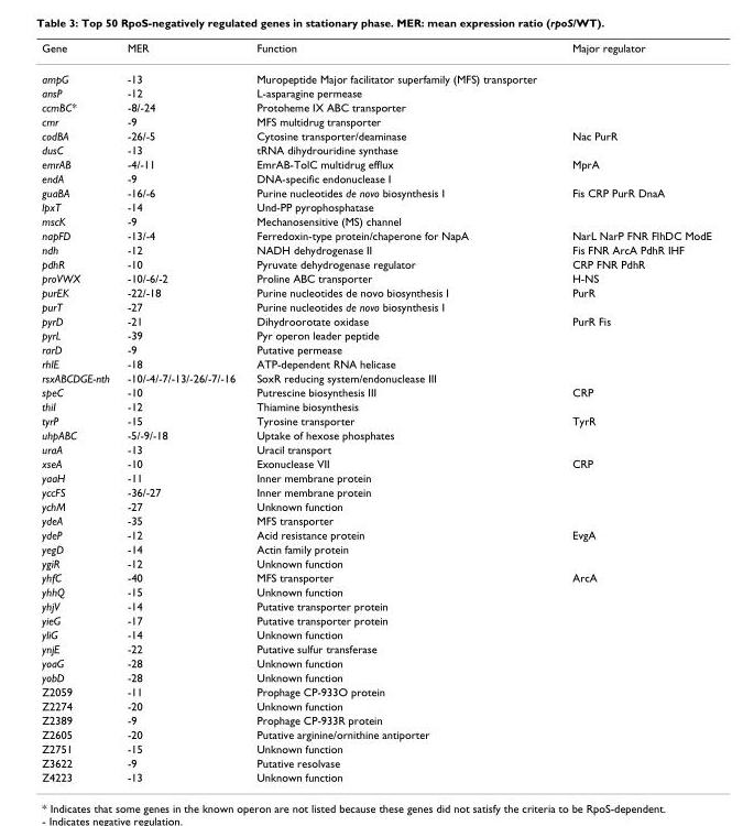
<table><thead><tr><td>Gene</td><td>MER</td><td>Function</td><td>Major regulator</td></tr></thead><tbody><tr><td>ampG</td><td>-13</td><td>Muropeptide Major facilitator superfamily (MFS) transporter</td><td></td></tr><tr><td>ansP</td><td>-12</td><td>L-asparagine permease</td><td></td></tr><tr><td>ccmBC*</td><td>-8/-24</td><td>Protoheme IX ABC transporter</td><td></td></tr><tr><td>cmr</td><td>-9</td><td>MFS multidrug transporter</td><td></td></tr><tr><td>codBA</td><td>-26/-5</td><td>Cytosine transporter/deaminase</td><td>Nac PurR</td></tr><tr><td>dusC</td><td>-13</td><td>tRNA dihydrouridine synthase</td><td></td></tr><tr><td>emrAB</td><td>-4/-11</td><td>EmrAB-TolC multidrug efflux</td><td>MprA</td></tr><tr><td>endA</td><td>-9</td><td>DNA-specific endonuclease I</td><td></td></tr><tr><td>guaBA</td><td>-16/-6</td><td>Purine nucleotides de novo biosynthesis I</td><td>Fis CRP PurR DnaA</td></tr><tr><td>lpxT</td><td>-14</td><td>Und-PP pyrophosphatase</td><td></td></tr><tr><td>mscK</td><td>-9</td><td>Mechanosensitive (MS) channel</td><td></td></tr><tr><td>napFD</td><td>-13/-4</td><td>Ferredoxin-type protein/chaperone for NapA</td><td>NarL NarP FNR FlhDC ModE</td></tr><tr><td>ndh</td><td>-12</td><td>NADH dehydrogenase II</td><td>Fis FNR ArcA PdhR IHF</td></tr><tr><td>pdhR</td><td>-10</td><td>Pyruvate dehydrogenase regulator</td><td>CRP FNR PdhR</td></tr><tr><td>proVWX</td><td>-10/-6/-2</td><td>Proline ABC transporter</td><td>H-NS</td></tr><tr><td>purEK</td><td>-22/-18</td><td>Purine nucleotides de novo biosynthesis I</td><td>PurR</td></tr><tr><td>purT</td><td>-27</td><td>Purine nucleotides de novo biosynthesis I</td><td></td></tr><tr><td>pyrD</td><td>-21</td><td>Dihydroorotate oxidase</td><td>PurR Fis</td></tr><tr><td>pyrL</td><td>-39</td><td>Pyr operon leader peptide</td><td></td></tr><tr><td>rarD</td><td>-9</td><td>Putative permease</td><td></td></tr><tr><td>rhlE</td><td>-18</td><td>ATP-dependent RNA helicase</td><td></td></tr><tr><td>rsxABCDGE-nth</td><td>-10/-4/-7/-13/-26/-7/-16</td><td>SoxR reducing system/endonuclease III</td><td></td></tr><tr><td>speC</td><td>-10</td><td>Putrescine biosynthesis III</td><td>CRP</td></tr><tr><td>thiI</td><td>-12</td><td>Thiamine biosynthesis</td><td></td></tr><tr><td>tyrP</td><td>-15</td><td>Tyrosine transporter</td><td>TyrR</td></tr><tr><td>uhpABC</td><td>-5/-9/-18</td><td>Uptake of hexose phosphates</td><td></td></tr><tr><td>uraA</td><td>-13</td><td>Uracil transport</td><td></td></tr><tr><td>xseA</td><td>-10</td><td>Exonuclease VII</td><td>CRP</td></tr><tr><td>yaaH</td><td>-11</td><td>Inner membrane protein</td><td></td></tr><tr><td>yccFS</td><td>-36/-27</td><td>Inner membrane protein</td><td></td></tr><tr><td>ychM</td><td>-27</td><td>Unknown function</td><td></td></tr><tr><td>ydeA</td><td>-35</td><td>MFS transporter</td><td></td></tr><tr><td>ydeP</td><td>-12</td><td>Acid resistance protein</td><td>EvgA</td></tr><tr><td>yegD</td><td>-14</td><td>Actin family protein</td><td></td></tr><tr><td>ygiR</td><td>-12</td><td>Unknown function</td><td></td></tr><tr><td>yhfC</td><td>-40</td><td>MFS transporter</td><td>ArcA</td></tr><tr><td>yhhQ</td><td>-15</td><td>Unknown function</td><td></td></tr><tr><td>yhjV</td><td>-14</td><td>Putative transporter protein</td><td></td></tr><tr><td>yieG</td><td>-17</td><td>Putative transporter protein</td><td></td></tr><tr><td>yliG</td><td>-14</td><td>Unknown function</td><td></td></tr><tr><td>ynjE</td><td>-22</td><td>Putative sulfur transferase</td><td></td></tr><tr><td>yoaG</td><td>-28</td><td>Unknown function</td><td></td></tr><tr><td>yobD</td><td>-28</td><td>Unknown function</td><td></td></tr><tr><td>Z2059</td><td>-11</td><td>Prophage CP-933O protein</td><td></td></tr><tr><td>Z2274</td><td>-20</td><td>Unknown function</td><td></td></tr><tr><td>Z2389</td><td>-9</td><td>Prophage CP-933R protein</td><td></td></tr><tr><td>Z2605</td><td>-20</td><td>Putative arginine/ornithine antiporter</td><td></td></tr><tr><td>Z2751</td><td>-15</td><td>Unknown function</td><td></td></tr><tr><td>Z3622</td><td>-9</td><td>Putative resolvase</td><td></td></tr><tr><td>Z4223</td><td>-13</td><td>Unknown function</td><td></td></tr></tbody></table>